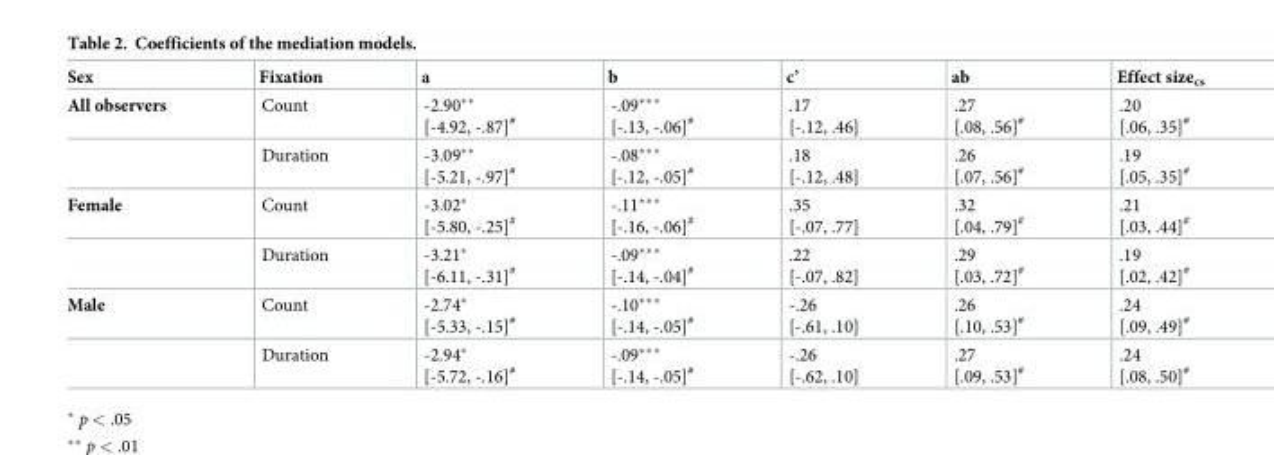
<table><thead><tr><td>Sex</td><td>Fixation</td><td>a</td><td>b</td><td>c’</td><td>ab</td><td>Effect size<sub>cs</sub></td></tr></thead><tbody><tr><td rowspan="2">All observers</td><td>Count</td><td>-2.90** [-4.92, -.87]<sup>#</sup></td><td>-.09*** [-.13, -.06]<sup>#</sup></td><td>.17 [-.12, .46]</td><td>.27 [.08, .56]<sup>#</sup></td><td>.20 [.06, .35]<sup>#</sup></td></tr><tr><td>Duration</td><td>-3.09** [-5.21, -.97]<sup>#</sup></td><td>-.08*** [-.12, -.05]<sup>#</sup></td><td>.18 [-.12, .48]</td><td>.26 [.07, .56]<sup>#</sup></td><td>.19 [.05, .35]<sup>#</sup></td></tr><tr><td rowspan="2">Female</td><td>Count</td><td>-3.02* [-5.80, -.25]<sup>#</sup></td><td>-.11*** [-.16, -.06]<sup>#</sup></td><td>.35 [-.07, .77]</td><td>.32 [.04, .79]<sup>#</sup></td><td>.21 [.03, .44]<sup>#</sup></td></tr><tr><td>Duration</td><td>-3.21* [-6.11, -.31]<sup>#</sup></td><td>-.09*** [-.14, -.04]<sup>#</sup></td><td>.22 [-.07, .82]</td><td>.29 [.03, .72]<sup>#</sup></td><td>.19 [.02, .42]<sup>#</sup></td></tr><tr><td rowspan="2">Male</td><td>Count</td><td>-2.74* [-5.33, -.15]<sup>#</sup></td><td>-.10*** [-.14, -.05]<sup>#</sup></td><td>-.26 [-.61, .10]</td><td>.26 [.10, .53]<sup>#</sup></td><td>.24 [.09, .49]<sup>#</sup></td></tr><tr><td>Duration</td><td>-2.94* [-5.72, -.16]<sup>#</sup></td><td>-.09*** [-.14, -.05]<sup>#</sup></td><td>-.26 [-.62, .10]</td><td>.27 [.09, .53]<sup>#</sup></td><td>.24 [.08, .50]<sup>#</sup></td></tr></tbody></table>